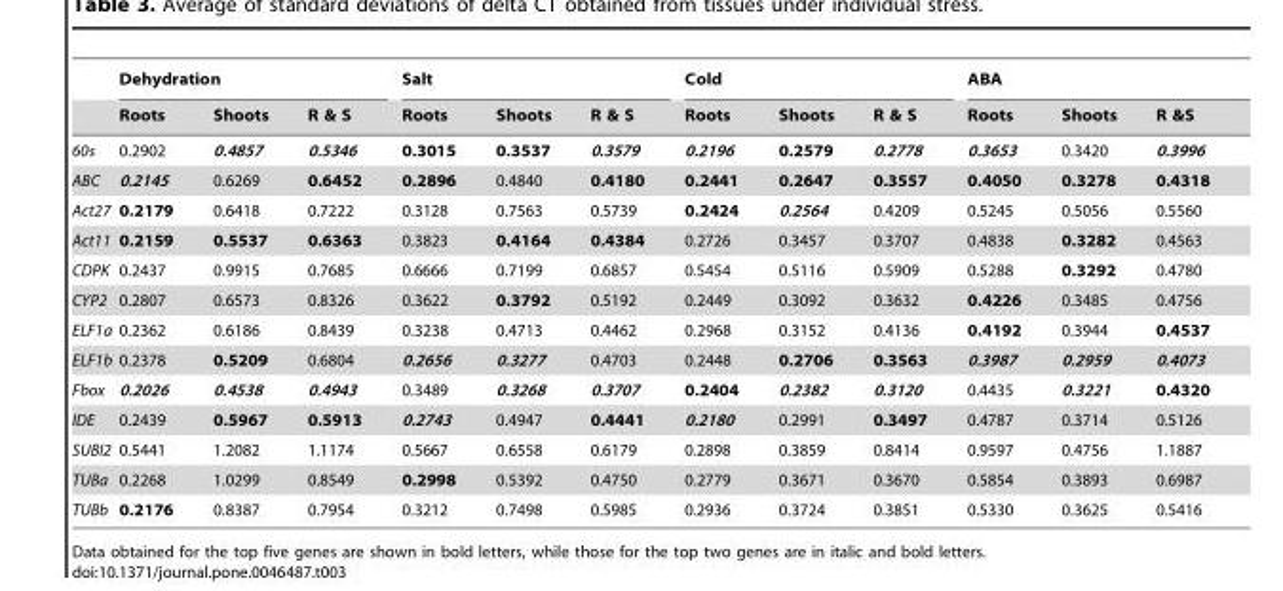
<table><thead><tr><td rowspan="2"></td><td colspan="3">Dehydration</td><td colspan="3">Salt</td><td colspan="3">Cold</td><td colspan="3">ABA</td></tr><tr><td>Roots</td><td>Shoots</td><td>R &amp; S</td><td>Roots</td><td>Shoots</td><td>R &amp; S</td><td>Roots</td><td>Shoots</td><td>R &amp; S</td><td>Roots</td><td>Shoots</td><td>R &amp;S</td></tr></thead><tbody><tr><td>60s</td><td>0.2902</td><td>0.4857</td><td>0.5346</td><td>0.3015</td><td>0.3537</td><td>0.3579</td><td>0.2196</td><td>0.2579</td><td>0.2778</td><td>0.3653</td><td>0.3420</td><td>0.3996</td></tr><tr><td>ABC</td><td>0.2145</td><td>0.6269</td><td>0.6452</td><td>0.2896</td><td>0.4840</td><td>0.4180</td><td>0.2441</td><td>0.2647</td><td>0.3557</td><td>0.4050</td><td>0.3278</td><td>0.4318</td></tr><tr><td>Act27</td><td>0.2179</td><td>0.6418</td><td>0.7222</td><td>0.3128</td><td>0.7563</td><td>0.5739</td><td>0.2424</td><td>0.2564</td><td>0.4209</td><td>0.5245</td><td>0.5056</td><td>0.5560</td></tr><tr><td>Act11</td><td>0.2159</td><td>0.5537</td><td>0.6363</td><td>0.3823</td><td>0.4164</td><td>0.4384</td><td>0.2726</td><td>0.3457</td><td>0.3707</td><td>0.4838</td><td>0.3282</td><td>0.4563</td></tr><tr><td>CDPK</td><td>0.2437</td><td>0.9915</td><td>0.7685</td><td>0.6666</td><td>0.7199</td><td>0.6857</td><td>0.5454</td><td>0.5116</td><td>0.5909</td><td>0.5288</td><td>0.3292</td><td>0.4780</td></tr><tr><td>CYP2</td><td>0.2807</td><td>0.6573</td><td>0.8326</td><td>0.3622</td><td>0.3792</td><td>0.5192</td><td>0.2449</td><td>0.3092</td><td>0.3632</td><td>0.4226</td><td>0.3485</td><td>0.4756</td></tr><tr><td>ELF1a</td><td>0.2362</td><td>0.6186</td><td>0.8439</td><td>0.3238</td><td>0.4713</td><td>0.4462</td><td>0.2968</td><td>0.3152</td><td>0.4136</td><td>0.4192</td><td>0.3944</td><td>0.4537</td></tr><tr><td>ELF1b</td><td>0.2378</td><td>0.5209</td><td>0.6804</td><td>0.2656</td><td>0.3277</td><td>0.4703</td><td>0.2448</td><td>0.2706</td><td>0.3563</td><td>0.3987</td><td>0.2959</td><td>0.4073</td></tr><tr><td>Fbox</td><td>0.2026</td><td>0.4538</td><td>0.4943</td><td>0.3489</td><td>0.3268</td><td>0.3707</td><td>0.2404</td><td>0.2382</td><td>0.3120</td><td>0.4435</td><td>0.3221</td><td>0.4320</td></tr><tr><td>IDE</td><td>0.2439</td><td>0.5967</td><td>0.5913</td><td>0.2743</td><td>0.4947</td><td>0.4441</td><td>0.2180</td><td>0.2991</td><td>0.3497</td><td>0.4787</td><td>0.3714</td><td>0.5126</td></tr><tr><td>SUBI2</td><td>0.5441</td><td>1.2082</td><td>1.1174</td><td>0.5667</td><td>0.6558</td><td>0.6179</td><td>0.2898</td><td>0.3859</td><td>0.8414</td><td>0.9597</td><td>0.4756</td><td>1.1887</td></tr><tr><td>TUBa</td><td>0.2268</td><td>1.0299</td><td>0.8549</td><td>0.2998</td><td>0.5392</td><td>0.4750</td><td>0.2779</td><td>0.3671</td><td>0.3670</td><td>0.5854</td><td>0.3893</td><td>0.6987</td></tr><tr><td>TUBb</td><td>0.2176</td><td>0.8387</td><td>0.7954</td><td>0.3212</td><td>0.7498</td><td>0.5985</td><td>0.2936</td><td>0.3724</td><td>0.3851</td><td>0.5330</td><td>0.3625</td><td>0.5416</td></tr></tbody></table>